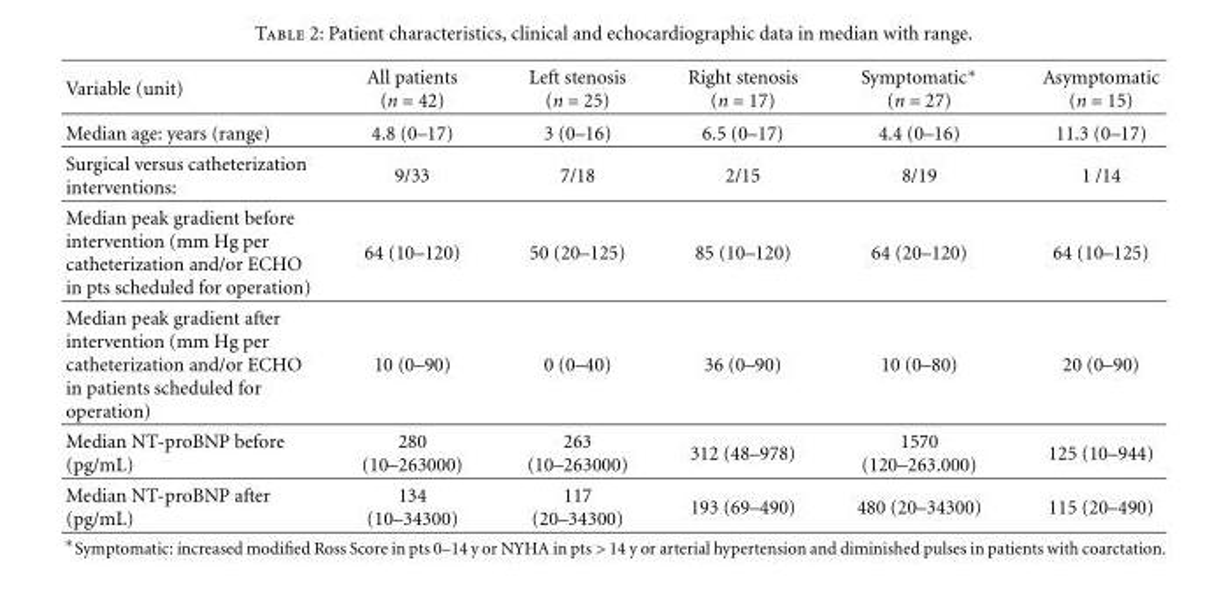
<table><thead><tr><td>Variable (unit)</td><td>All patients (n = 42)</td><td>Left stenosis (n = 25)</td><td>Right stenosis (n = 17)</td><td>Symptomatic∗ (n = 27)</td><td>Asymptomatic (n = 15)</td></tr></thead><tbody><tr><td>Median age: years (range)</td><td>4.8 (0–17)</td><td>3 (0–16)</td><td>6.5 (0–17)</td><td>4.4 (0–16)</td><td>11.3 (0–17)</td></tr><tr><td>Surgical versus catheterization interventions:</td><td>9/33</td><td>7/18</td><td>2/15</td><td>8/19</td><td>1 /14</td></tr><tr><td>Median peak gradient before intervention (mm Hg per catheterization and/or ECHO in pts scheduled for operation)</td><td>64 (10–120)</td><td>50 (20–125)</td><td>85 (10–120)</td><td>64 (20–120)</td><td>64 (10–125)</td></tr><tr><td>Median peak gradient after intervention (mm Hg per catheterization and/or ECHO in patients scheduled for operation)</td><td>10 (0–90)</td><td>0 (0–40)</td><td>36 (0–90)</td><td>10 (0–80)</td><td>20 (0–90)</td></tr><tr><td>Median NT-proBNP before (pg/mL)</td><td>280 (10–263000)</td><td>263 (10–263000)</td><td>312 (48–978)</td><td>1570 (120–263.000)</td><td>125 (10–944)</td></tr><tr><td>Median NT-proBNP after (pg/mL)</td><td>134 (10–34300)</td><td>117 (20–34300)</td><td>193 (69–490)</td><td>480 (20–34300)</td><td>115 (20–490)</td></tr></tbody></table>